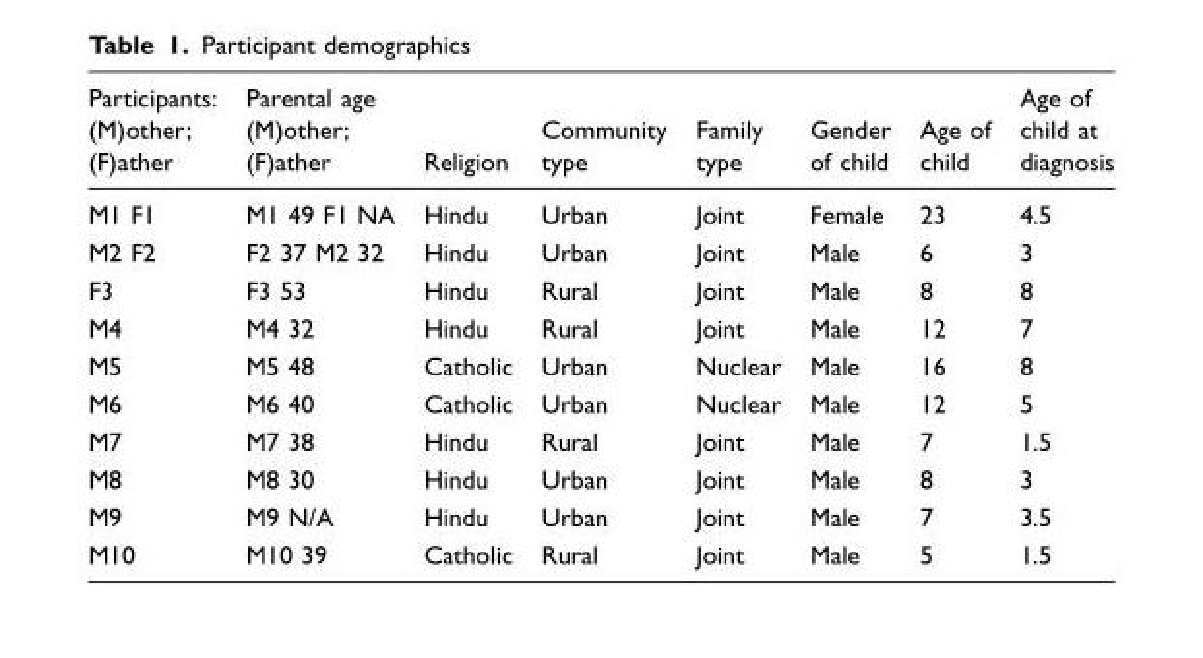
<table><thead><tr><td>Participants: (M)other; (F)ather</td><td>Parental age (M)other; (F)ather</td><td>Religion</td><td>Community type</td><td>Family type</td><td>Gender of child</td><td>Age of child</td><td>Age of child at diagnosis</td></tr></thead><tbody><tr><td>M1 F1</td><td>M1 49 F1 NA</td><td>Hindu</td><td>Urban</td><td>Joint</td><td>Female</td><td>23</td><td>4.5</td></tr><tr><td>M2 F2</td><td>F2 37 M2 32</td><td>Hindu</td><td>Urban</td><td>Joint</td><td>Male</td><td>6</td><td>3</td></tr><tr><td>F3</td><td>F3 53</td><td>Hindu</td><td>Rural</td><td>Joint</td><td>Male</td><td>8</td><td>8</td></tr><tr><td>M4</td><td>M4 32</td><td>Hindu</td><td>Rural</td><td>Joint</td><td>Male</td><td>12</td><td>7</td></tr><tr><td>M5</td><td>M5 48</td><td>Catholic</td><td>Urban</td><td>Nuclear</td><td>Male</td><td>16</td><td>8</td></tr><tr><td>M6</td><td>M6 40</td><td>Catholic</td><td>Urban</td><td>Nuclear</td><td>Male</td><td>12</td><td>5</td></tr><tr><td>M7</td><td>M7 38</td><td>Hindu</td><td>Rural</td><td>Joint</td><td>Male</td><td>7</td><td>1.5</td></tr><tr><td>M8</td><td>M8 30</td><td>Hindu</td><td>Urban</td><td>Joint</td><td>Male</td><td>8</td><td>3</td></tr><tr><td>M9</td><td>M9 N/A</td><td>Hindu</td><td>Urban</td><td>Joint</td><td>Male</td><td>7</td><td>3.5</td></tr><tr><td>M10</td><td>M10 39</td><td>Catholic</td><td>Rural</td><td>Joint</td><td>Male</td><td>5</td><td>1.5</td></tr></tbody></table>